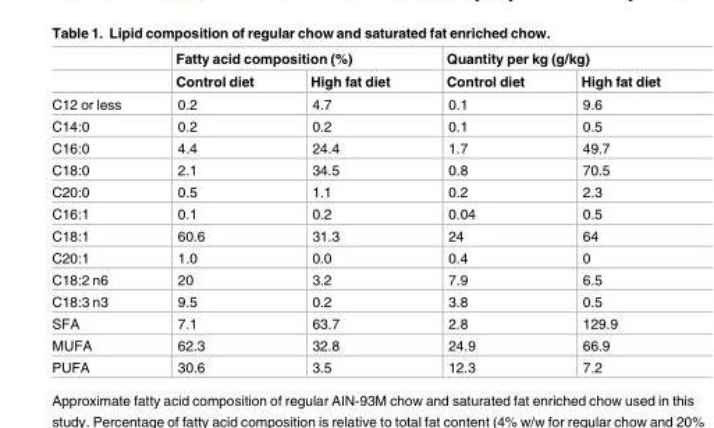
<table><thead><tr><td rowspan="2"></td><td colspan="2">Fatty acid composition (%)</td><td colspan="2">Quantity per kg (g/kg)</td></tr><tr><td>Control diet</td><td>High fat diet</td><td>Control diet</td><td>High fat diet</td></tr></thead><tbody><tr><td>C12 or less</td><td>0.2</td><td>4.7</td><td>0.1</td><td>9.6</td></tr><tr><td>C14:0</td><td>0.2</td><td>0.2</td><td>0.1</td><td>0.5</td></tr><tr><td>C16:0</td><td>4.4</td><td>24.4</td><td>1.7</td><td>49.7</td></tr><tr><td>C18:0</td><td>2.1</td><td>34.5</td><td>0.8</td><td>70.5</td></tr><tr><td>C20:0</td><td>0.5</td><td>1.1</td><td>0.2</td><td>2.3</td></tr><tr><td>C16:1</td><td>0.1</td><td>0.2</td><td>0.04</td><td>0.5</td></tr><tr><td>C18:1</td><td>60.6</td><td>31.3</td><td>24</td><td>64</td></tr><tr><td>C20:1</td><td>1.0</td><td>0.0</td><td>0.4</td><td>0</td></tr><tr><td>C18:2 n6</td><td>20</td><td>3.2</td><td>7.9</td><td>6.5</td></tr><tr><td>C18:3 n3</td><td>9.5</td><td>0.2</td><td>3.8</td><td>0.5</td></tr><tr><td>SFA</td><td>7.1</td><td>63.7</td><td>2.8</td><td>129.9</td></tr><tr><td>MUFA</td><td>62.3</td><td>32.8</td><td>24.9</td><td>66.9</td></tr><tr><td>PUFA</td><td>30.6</td><td>3.5</td><td>12.3</td><td>7.2</td></tr></tbody></table>